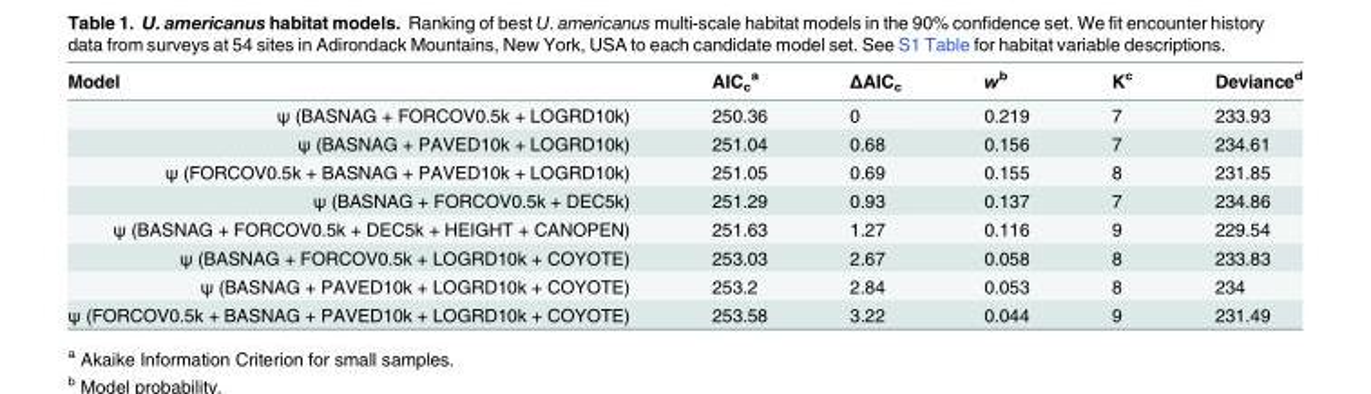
<table><thead><tr><td>Model</td><td>AIC<sub>c</sub> <sup>a</sup></td><td>ΔAIC<sub>c</sub></td><td>w<sup>b</sup></td><td>K<sup>c</sup></td><td>Deviance<sup>d</sup></td></tr></thead><tbody><tr><td>ψ (BASNAG + FORCOV0.5k + LOGRD10k)</td><td>250.36</td><td>0</td><td>0.219</td><td>7</td><td>233.93</td></tr><tr><td>ψ (BASNAG + PAVED10k + LOGRD10k)</td><td>251.04</td><td>0.68</td><td>0.156</td><td>7</td><td>234.61</td></tr><tr><td>ψ (FORCOV0.5k + BASNAG + PAVED10k + LOGRD10k)</td><td>251.05</td><td>0.69</td><td>0.155</td><td>8</td><td>231.85</td></tr><tr><td>ψ (BASNAG + FORCOV0.5k + DEC5k)</td><td>251.29</td><td>0.93</td><td>0.137</td><td>7</td><td>234.86</td></tr><tr><td>ψ (BASNAG + FORCOV0.5k + DEC5k + HEIGHT + CANOPEN)</td><td>251.63</td><td>1.27</td><td>0.116</td><td>9</td><td>229.54</td></tr><tr><td>ψ (BASNAG + FORCOV0.5k + LOGRD10k + COYOTE)</td><td>253.03</td><td>2.67</td><td>0.058</td><td>8</td><td>233.83</td></tr><tr><td>ψ (BASNAG + PAVED10k + LOGRD10k + COYOTE)</td><td>253.2</td><td>2.84</td><td>0.053</td><td>8</td><td>234</td></tr><tr><td>ψ (FORCOV0.5k + BASNAG + PAVED10k + LOGRD10k + COYOTE)</td><td>253.58</td><td>3.22</td><td>0.044</td><td>9</td><td>231.49</td></tr></tbody></table>